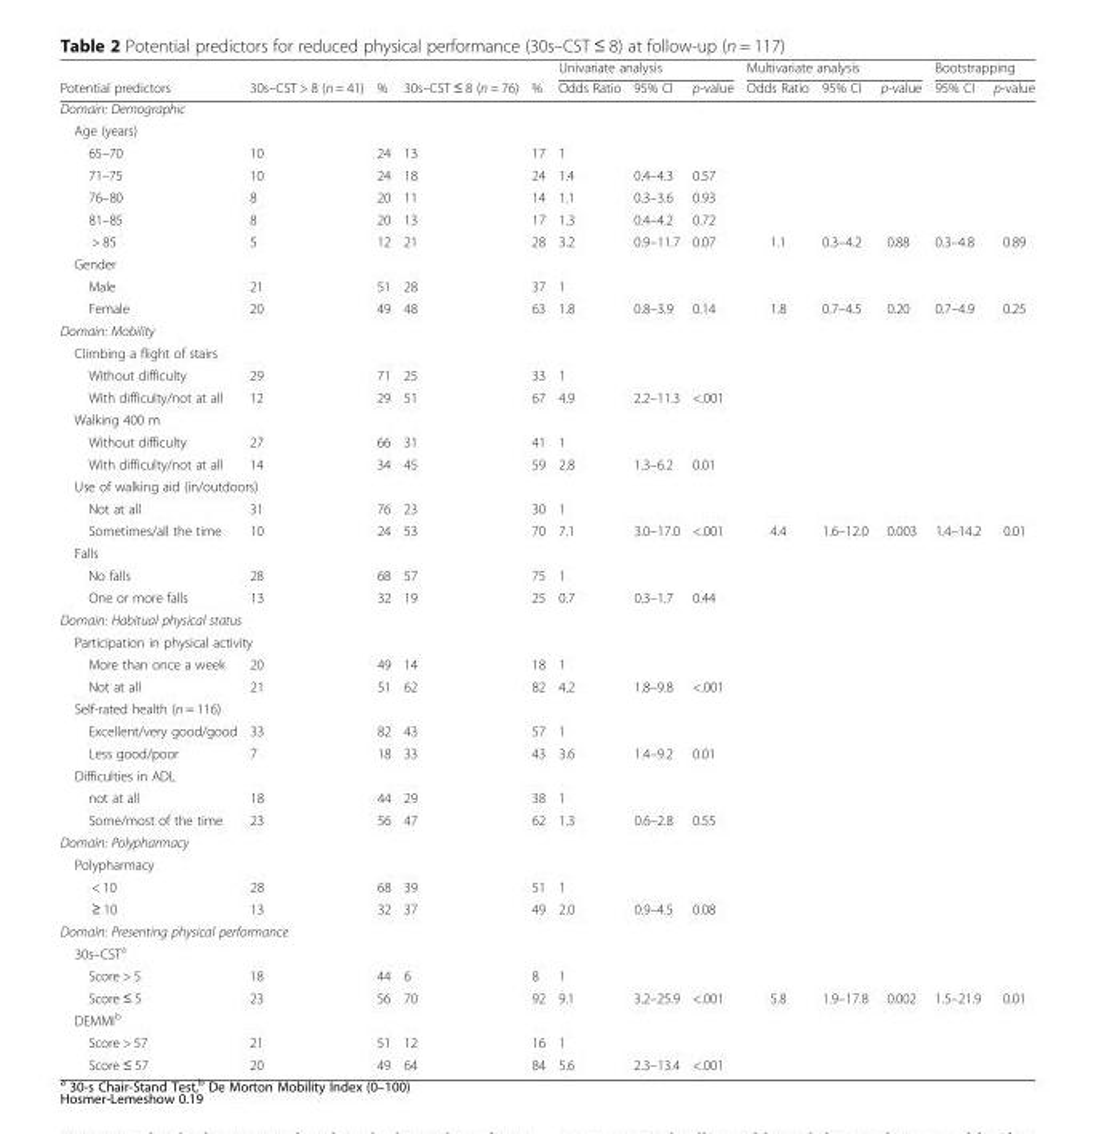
<table><thead><tr><td rowspan="2">Potential predictors</td><td rowspan="2">30s–CST &gt; 8 (n = 41)</td><td rowspan="2">%</td><td rowspan="2">30s–CST ≤ 8 (n = 76)</td><td rowspan="2">%</td><td colspan="3">Univariate analysis</td><td colspan="3">Multivariate analysis</td><td colspan="2">Bootstrapping</td></tr><tr><td>Odds Ratio</td><td>95% CI</td><td>p-value</td><td>Odds Ratio</td><td>95% CI</td><td>p-value</td><td>95% CI</td><td>p-value</td></tr></thead><tbody><tr><td colspan="13">Domain: Demographic</td></tr><tr><td colspan="13">Age (years)</td></tr><tr><td>65–70</td><td>10</td><td>24</td><td>13</td><td>17</td><td>1</td><td></td><td></td><td></td><td></td><td></td><td></td><td></td></tr><tr><td>71–75</td><td>10</td><td>24</td><td>18</td><td>24</td><td>1.4</td><td>0.4–4.3</td><td>0.57</td><td></td><td></td><td></td><td></td><td></td></tr><tr><td>76–80</td><td>8</td><td>20</td><td>11</td><td>14</td><td>1.1</td><td>0.3–3.6</td><td>0.93</td><td></td><td></td><td></td><td></td><td></td></tr><tr><td>81–85</td><td>8</td><td>20</td><td>13</td><td>17</td><td>1.3</td><td>0.4–4.2</td><td>0.72</td><td></td><td></td><td></td><td></td><td></td></tr><tr><td>&gt; 85</td><td>5</td><td>12</td><td>21</td><td>28</td><td>3.2</td><td>0.9–11.7</td><td>0.07</td><td>1.1</td><td>0.3–4.2</td><td>0.88</td><td>0.3–4.8</td><td>0.89</td></tr><tr><td colspan="13">Gender</td></tr><tr><td>Male</td><td>21</td><td>51</td><td>28</td><td>37</td><td>1</td><td></td><td></td><td></td><td></td><td></td><td></td><td></td></tr><tr><td>Female</td><td>20</td><td>49</td><td>48</td><td>63</td><td>1.8</td><td>0.8–3.9</td><td>0.14</td><td>1.8</td><td>0.7–4.5</td><td>0.20</td><td>0.7–4.9</td><td>0.25</td></tr><tr><td colspan="13">Domain: Mobility</td></tr><tr><td colspan="13">Climbing a flight of stairs</td></tr><tr><td>Without difficulty</td><td>29</td><td>71</td><td>25</td><td>33</td><td>1</td><td></td><td></td><td></td><td></td><td></td><td></td><td></td></tr><tr><td>With difficulty/not at all</td><td>12</td><td>29</td><td>51</td><td>67</td><td>4.9</td><td>2.2–11.3</td><td>&lt;.001</td><td></td><td></td><td></td><td></td><td></td></tr><tr><td colspan="13">Walking 400 m</td></tr><tr><td>Without difficulty</td><td>27</td><td>66</td><td>31</td><td>41</td><td>1</td><td></td><td></td><td></td><td></td><td></td><td></td><td></td></tr><tr><td>With difficulty/not at all</td><td>14</td><td>34</td><td>45</td><td>59</td><td>2.8</td><td>1.3–6.2</td><td>0.01</td><td></td><td></td><td></td><td></td><td></td></tr><tr><td colspan="13">Use of walking aid (in/outdoors)</td></tr><tr><td>Not at all</td><td>31</td><td>76</td><td>23</td><td>30</td><td>1</td><td></td><td></td><td></td><td></td><td></td><td></td><td></td></tr><tr><td>Sometimes/all the time</td><td>10</td><td>24</td><td>53</td><td>70</td><td>7.1</td><td>3.0–17.0</td><td>&lt;.001</td><td>4.4</td><td>1.6–12.0</td><td>0.003</td><td>1.4–14.2</td><td>0.01</td></tr><tr><td colspan="13">Falls</td></tr><tr><td>No falls</td><td>28</td><td>68</td><td>57</td><td>75</td><td>1</td><td></td><td></td><td></td><td></td><td></td><td></td><td></td></tr><tr><td>One or more falls</td><td>13</td><td>32</td><td>19</td><td>25</td><td>0.7</td><td>0.3–1.7</td><td>0.44</td><td></td><td></td><td></td><td></td><td></td></tr><tr><td colspan="13">Domain: Habitual physical status</td></tr><tr><td colspan="13">Participation in physical activity</td></tr><tr><td>More than once a week</td><td>20</td><td>49</td><td>14</td><td>18</td><td>1</td><td></td><td></td><td></td><td></td><td></td><td></td><td></td></tr><tr><td>Not at all</td><td>21</td><td>51</td><td>62</td><td>82</td><td>4.2</td><td>1.8–9.8</td><td>&lt;.001</td><td></td><td></td><td></td><td></td><td></td></tr><tr><td colspan="13">Self-rated health (n = 116)</td></tr><tr><td>Excellent/very good/good</td><td>33</td><td>82</td><td>43</td><td>57</td><td>1</td><td></td><td></td><td></td><td></td><td></td><td></td><td></td></tr><tr><td>Less good/poor</td><td>7</td><td>18</td><td>33</td><td>43</td><td>3.6</td><td>1.4–9.2</td><td>0.01</td><td></td><td></td><td></td><td></td><td></td></tr><tr><td colspan="13">Difficulties in ADL</td></tr><tr><td>not at all</td><td>18</td><td>44</td><td>29</td><td>38</td><td>1</td><td></td><td></td><td></td><td></td><td></td><td></td><td></td></tr><tr><td>Some/most of the time</td><td>23</td><td>56</td><td>47</td><td>62</td><td>1.3</td><td>0.6–2.8</td><td>0.55</td><td></td><td></td><td></td><td></td><td></td></tr><tr><td colspan="13">Domain: Polypharmacy</td></tr><tr><td colspan="13">Polypharmacy</td></tr><tr><td>&lt; 10</td><td>28</td><td>68</td><td>39</td><td>51</td><td>1</td><td></td><td></td><td></td><td></td><td></td><td></td><td></td></tr><tr><td>≥ 10</td><td>13</td><td>32</td><td>37</td><td>49</td><td>2.0</td><td>0.9–4.5</td><td>0.08</td><td></td><td></td><td></td><td></td><td></td></tr><tr><td colspan="13">Domain: Presenting physical performance</td></tr><tr><td colspan="13">30s–CST<sup>a</sup></td></tr><tr><td>Score &gt; 5</td><td>18</td><td>44</td><td>6</td><td>8</td><td>1</td><td></td><td></td><td></td><td></td><td></td><td></td><td></td></tr><tr><td>Score ≤ 5</td><td>23</td><td>56</td><td>70</td><td>92</td><td>9.1</td><td>3.2–25.9</td><td>&lt;.001</td><td>5.8</td><td>1.9–17.8</td><td>0.002</td><td>1.5–21.9</td><td>0.01</td></tr><tr><td colspan="13">DEMMI<sup>b</sup></td></tr><tr><td>Score &gt; 57</td><td>21</td><td>51</td><td>12</td><td>16</td><td>1</td><td></td><td></td><td></td><td></td><td></td><td></td><td></td></tr><tr><td>Score ≤ 57</td><td>20</td><td>49</td><td>64</td><td>84</td><td>5.6</td><td>2.3–13.4</td><td>&lt;.001</td><td></td><td></td><td></td><td></td><td></td></tr></tbody></table>